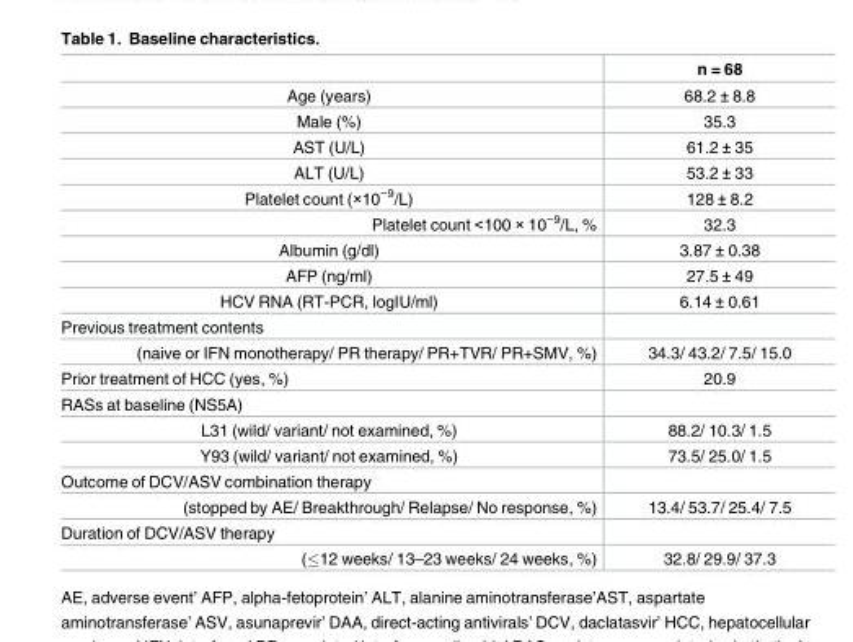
<table><thead><tr><td></td><td>n = 68</td></tr></thead><tbody><tr><td>Age (years)</td><td>68.2 ± 8.8</td></tr><tr><td>Male (%)</td><td>35.3</td></tr><tr><td>AST (U/L)</td><td>61.2 ± 35</td></tr><tr><td>ALT (U/L)</td><td>53.2 ± 33</td></tr><tr><td>Platelet count (×10<sup>−9</sup>/L)</td><td>128 ± 8.2</td></tr><tr><td>Platelet count &lt;100 × 10<sup>−9</sup>/L, %</td><td>32.3</td></tr><tr><td>Albumin (g/dl)</td><td>3.87 ± 0.38</td></tr><tr><td>AFP (ng/ml)</td><td>27.5 ± 49</td></tr><tr><td>HCV RNA (RT-PCR, logIU/ml)</td><td>6.14 ± 0.61</td></tr><tr><td colspan="2">Previous treatment contents</td></tr><tr><td>(naive or IFN monotherapy/ PR therapy/ PR+TVR/ PR+SMV, %)</td><td>34.3/ 43.2/ 7.5/ 15.0</td></tr><tr><td>Prior treatment of HCC (yes, %)</td><td>20.9</td></tr><tr><td colspan="2">RASs at baseline (NS5A)</td></tr><tr><td>L31 (wild/ variant/ not examined, %)</td><td>88.2/ 10.3/ 1.5</td></tr><tr><td>Y93 (wild/ variant/ not examined, %)</td><td>73.5/ 25.0/ 1.5</td></tr><tr><td colspan="2">Outcome of DCV/ASV combination therapy</td></tr><tr><td>(stopped by AE/ Breakthrough/ Relapse/ No response, %)</td><td>13.4/ 53.7/ 25.4/ 7.5</td></tr><tr><td colspan="2">Duration of DCV/ASV therapy</td></tr><tr><td>(≤12 weeks/ 13–23 weeks/ 24 weeks, %)</td><td>32.8/ 29.9/ 37.3</td></tr></tbody></table>